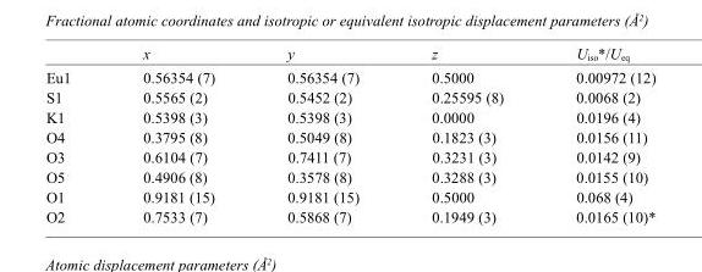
<table><thead><tr><td></td><td>x</td><td>y</td><td>z</td><td>U<sub>iso</sub>*/U<sub>eq</sub></td></tr></thead><tbody><tr><td>Eu1</td><td>0.56354 (7)</td><td>0.56354 (7)</td><td>0.5000</td><td>0.00972 (12)</td></tr><tr><td>S1</td><td>0.5565 (2)</td><td>0.5452 (2)</td><td>0.25595 (8)</td><td>0.0068 (2)</td></tr><tr><td>K1</td><td>0.5398 (3)</td><td>0.5398 (3)</td><td>0.0000</td><td>0.0196 (4)</td></tr><tr><td>O4</td><td>0.3795 (8)</td><td>0.5049 (8)</td><td>0.1823 (3)</td><td>0.0156 (11)</td></tr><tr><td>O3</td><td>0.6104 (7)</td><td>0.7411 (7)</td><td>0.3231 (3)</td><td>0.0142 (9)</td></tr><tr><td>O5</td><td>0.4906 (8)</td><td>0.3578 (8)</td><td>0.3288 (3)</td><td>0.0155 (10)</td></tr><tr><td>O1</td><td>0.9181 (15)</td><td>0.9181 (15)</td><td>0.5000</td><td>0.068 (4)</td></tr><tr><td>O2</td><td>0.7533 (7)</td><td>0.5868 (7)</td><td>0.1949 (3)</td><td>0.0165 (10)*</td></tr></tbody></table>